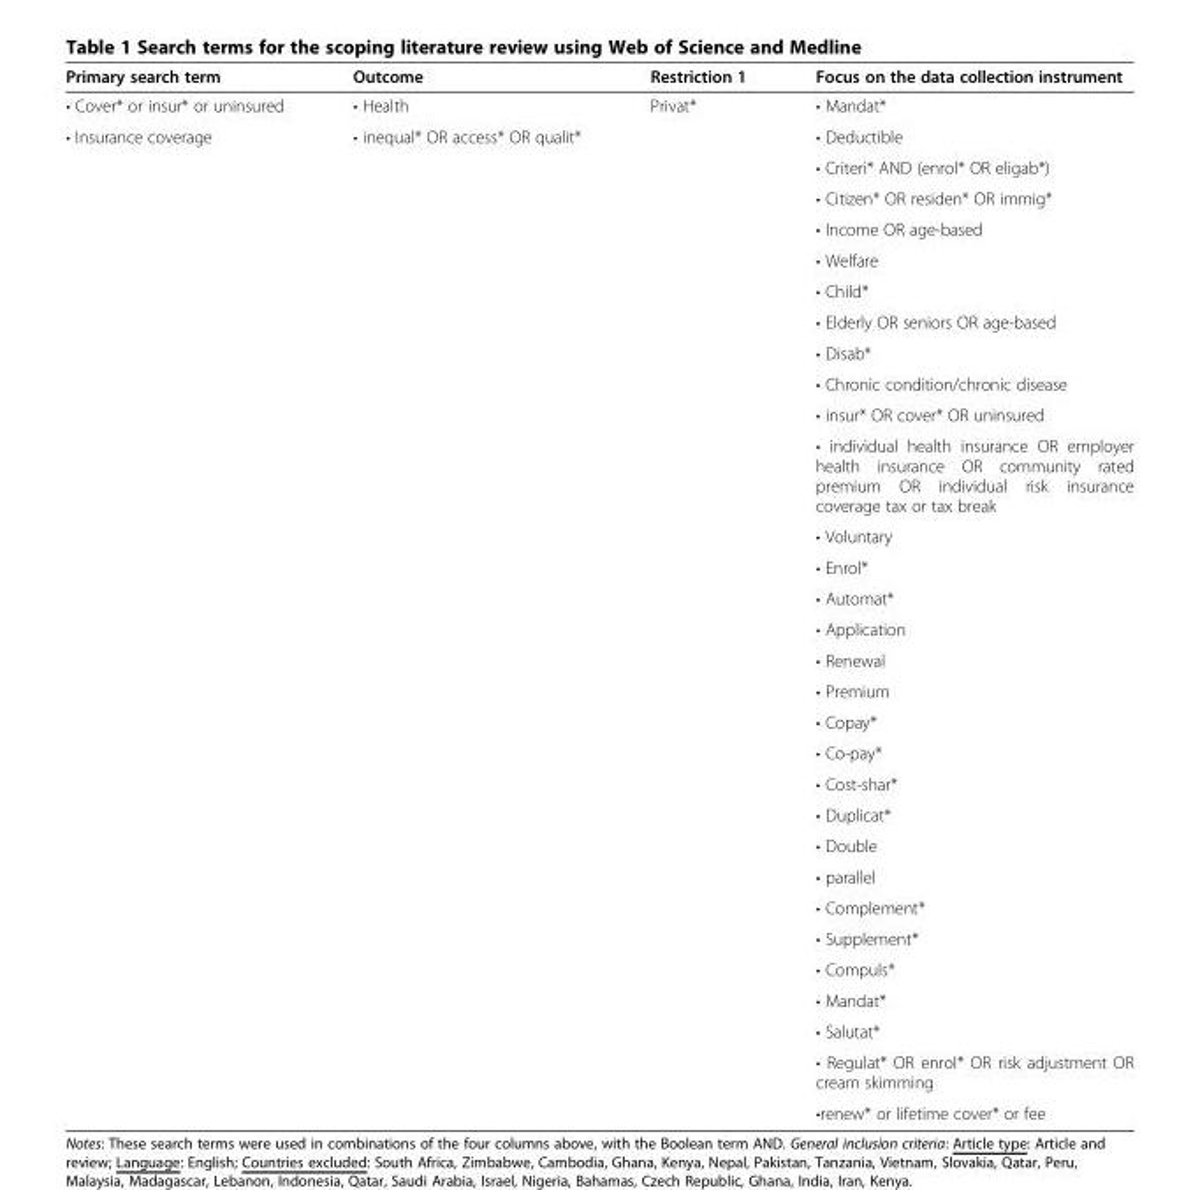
<table><thead><tr><td>Primary search term</td><td>Outcome</td><td>Restriction 1</td><td>Focus on the data collection instrument</td></tr></thead><tbody><tr><td>• Cover* or insur* or uninsured</td><td>• Health</td><td>Privat*</td><td>• Mandat*</td></tr><tr><td rowspan="30">• Insurance coverage</td><td>• inequal* OR access* OR qualit*</td><td></td><td>• Deductible</td></tr><tr><td></td><td></td><td>• Criteri* AND (enrol* OR eligab*)</td></tr><tr><td></td><td></td><td>• Citizen* OR residen* OR immig*</td></tr><tr><td></td><td></td><td>• Income OR age-based</td></tr><tr><td></td><td></td><td>• Welfare</td></tr><tr><td></td><td></td><td>• Child*</td></tr><tr><td></td><td></td><td>• Elderly OR seniors OR age-based</td></tr><tr><td></td><td></td><td>• Disab*</td></tr><tr><td></td><td></td><td>• Chronic condition/chronic disease</td></tr><tr><td></td><td></td><td>• insur* OR cover* OR uninsured</td></tr><tr><td></td><td></td><td>• individual health insurance OR employer health insurance OR community rated premium OR individual risk insurance coverage tax or tax break</td></tr><tr><td></td><td></td><td>• Voluntary</td></tr><tr><td></td><td></td><td>• Enrol*</td></tr><tr><td></td><td></td><td>• Automat*</td></tr><tr><td></td><td></td><td>• Application</td></tr><tr><td></td><td></td><td>• Renewal</td></tr><tr><td></td><td></td><td>• Premium</td></tr><tr><td></td><td></td><td>• Copay*</td></tr><tr><td></td><td></td><td>• Co-pay*</td></tr><tr><td></td><td></td><td>• Cost-shar*</td></tr><tr><td></td><td></td><td>• Duplicat*</td></tr><tr><td></td><td></td><td>• Double</td></tr><tr><td></td><td></td><td>• parallel</td></tr><tr><td></td><td></td><td>• Complement*</td></tr><tr><td></td><td></td><td>• Supplement*</td></tr><tr><td></td><td></td><td>• Compuls*</td></tr><tr><td></td><td></td><td>• Mandat*</td></tr><tr><td></td><td></td><td>• Salutat*</td></tr><tr><td></td><td></td><td>• Regulat* OR enrol* OR risk adjustment OR cream skimming</td></tr><tr><td></td><td></td><td>•renew* or lifetime cover* or fee</td></tr></tbody></table>